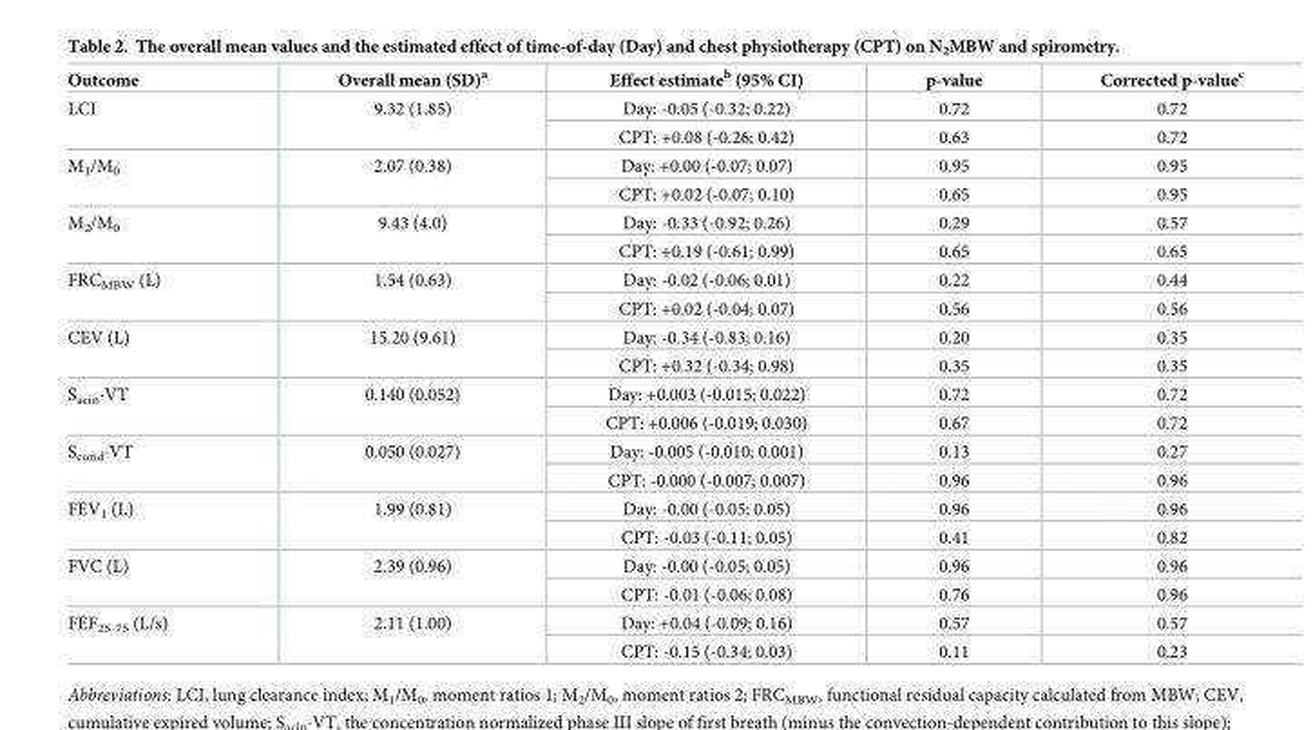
<table><thead><tr><td>Outcome</td><td>Overall mean (SD)<sup>a</sup></td><td>Effect estimate<sup>b</sup> (95% CI)</td><td>p-value</td><td>Corrected p-value<sup>c</sup></td></tr></thead><tbody><tr><td rowspan="2">LCI</td><td rowspan="2">9.32 (1.85)</td><td>Day: -0.05 (-0.32; 0.22)</td><td>0.72</td><td>0.72</td></tr><tr><td>CPT: +0.08 (-0.26; 0.42)</td><td>0.63</td><td>0.72</td></tr><tr><td rowspan="2">M<sub>1</sub>/M<sub>0</sub></td><td rowspan="2">2.07 (0.38)</td><td>Day: +0.00 (-0.07; 0.07)</td><td>0.95</td><td>0.95</td></tr><tr><td>CPT: +0.02 (-0.07; 0.10)</td><td>0.65</td><td>0.95</td></tr><tr><td rowspan="2">M<sub>2</sub>/M<sub>0</sub></td><td rowspan="2">9.43 (4.0)</td><td>Day: -0.33 (-0.92; 0.26)</td><td>0.29</td><td>0.57</td></tr><tr><td>CPT: +0.19 (-0.61; 0.99)</td><td>0.65</td><td>0.65</td></tr><tr><td rowspan="2">FRC<sub>MBW</sub> (L)</td><td rowspan="2">1.54 (0.63)</td><td>Day: -0.02 (-0.06; 0.01)</td><td>0.22</td><td>0.44</td></tr><tr><td>CPT: +0.02 (-0.04; 0.07)</td><td>0.56</td><td>0.56</td></tr><tr><td rowspan="2">CEV (L)</td><td rowspan="2">15.20 (9.61)</td><td>Day: -0.34 (-0.83; 0.16)</td><td>0.20</td><td>0.35</td></tr><tr><td>CPT: +0.32 (-0.34; 0.98)</td><td>0.35</td><td>0.35</td></tr><tr><td rowspan="2">S<sub>acin</sub>·VT</td><td rowspan="2">0.140 (0.052)</td><td>Day: +0.003 (-0.015; 0.022)</td><td>0.72</td><td>0.72</td></tr><tr><td>CPT: +0.006 (-0.019; 0.030)</td><td>0.67</td><td>0.72</td></tr><tr><td rowspan="2">S<sub>cond</sub>·VT</td><td rowspan="2">0.050 (0.027)</td><td>Day: -0.005 (-0.010; 0.001)</td><td>0.13</td><td>0.27</td></tr><tr><td>CPT: -0.000 (-0.007; 0.007)</td><td>0.96</td><td>0.96</td></tr><tr><td rowspan="2">FEV<sub>1</sub> (L)</td><td rowspan="2">1.99 (0.81)</td><td>Day: -0.00 (-0.05; 0.05)</td><td>0.96</td><td>0.96</td></tr><tr><td>CPT: -0.03 (-0.11; 0.05)</td><td>0.41</td><td>0.82</td></tr><tr><td rowspan="2">FVC (L)</td><td rowspan="2">2.39 (0.96)</td><td>Day: -0.00 (-0.05; 0.05)</td><td>0.96</td><td>0.96</td></tr><tr><td>CPT: -0.01 (-0.06; 0.08)</td><td>0.76</td><td>0.96</td></tr><tr><td rowspan="2">FEF<sub>25-75</sub> (L/s)</td><td rowspan="2">2.11 (1.00)</td><td>Day: +0.04 (-0.09; 0.16)</td><td>0.57</td><td>0.57</td></tr><tr><td>CPT: -0.15 (-0.34; 0.03)</td><td>0.11</td><td>0.23</td></tr></tbody></table>